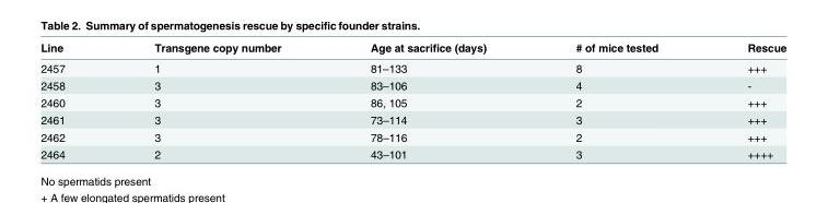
<table><thead><tr><td>Line</td><td>Transgene copy number</td><td>Age at sacrifice (days)</td><td># of mice tested</td><td>Rescue</td></tr></thead><tbody><tr><td>2457</td><td>1</td><td>81–133</td><td>8</td><td>+++</td></tr><tr><td>2458</td><td>3</td><td>83–106</td><td>4</td><td>-</td></tr><tr><td>2460</td><td>3</td><td>86, 105</td><td>2</td><td>+++</td></tr><tr><td>2461</td><td>3</td><td>73–114</td><td>3</td><td>+++</td></tr><tr><td>2462</td><td>3</td><td>78–116</td><td>2</td><td>+++</td></tr><tr><td>2464</td><td>2</td><td>43–101</td><td>3</td><td>++++</td></tr></tbody></table>